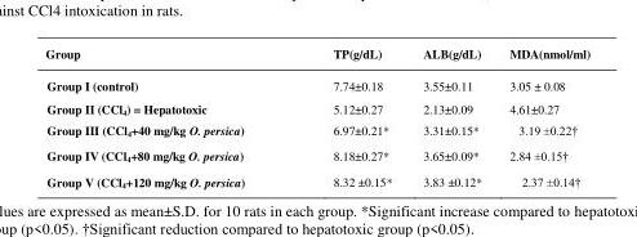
<table><thead><tr><td>Group</td><td>TP(g/dL)</td><td>ALB(g/dL)</td><td>MDA(nmol/ml)</td></tr></thead><tbody><tr><td>Group I (control)</td><td>7.74±0.18</td><td>3.55±0.11</td><td>3.05 ± 0.08</td></tr><tr><td>Group II (CCl<sub>4</sub>) = Hepatotoxic</td><td>5.12±0.27</td><td>2.13±0.09</td><td>4.61±0.27</td></tr><tr><td>Group III (CCl<sub>4</sub>+40 mg/kg O. persica)</td><td>6.97±0.21*</td><td>3.31±0.15*</td><td>3.19 ±0.22†</td></tr><tr><td>Group IV (CCl<sub>4</sub>+80 mg/kg O. persica)</td><td>8.18±0.27*</td><td>3.65±0.09*</td><td>2.84 ±0.15†</td></tr><tr><td>Group V (CCl<sub>4</sub>+120 mg/kg O. persica)</td><td>8.32 ±0.15*</td><td>3.83 ±0.12*</td><td>2.37 ±0.14†</td></tr></tbody></table>